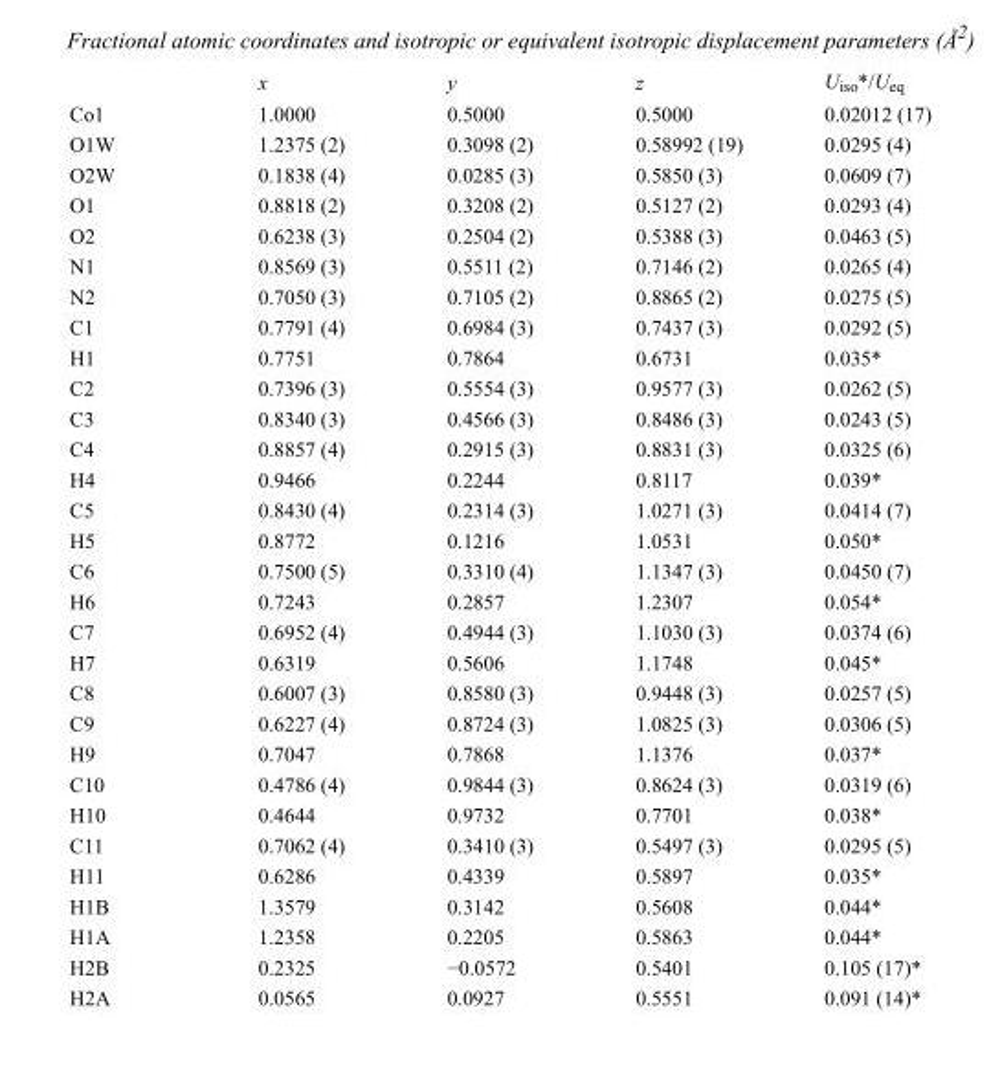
<table><thead><tr><td></td><td>x</td><td>y</td><td>z</td><td>U<sub>iso</sub>*/U<sub>eq</sub></td></tr></thead><tbody><tr><td>Co1</td><td>1.0000</td><td>0.5000</td><td>0.5000</td><td>0.02012 (17)</td></tr><tr><td>O1W</td><td>1.2375 (2)</td><td>0.3098 (2)</td><td>0.58992 (19)</td><td>0.0295 (4)</td></tr><tr><td>O2W</td><td>0.1838 (4)</td><td>0.0285 (3)</td><td>0.5850 (3)</td><td>0.0609 (7)</td></tr><tr><td>O1</td><td>0.8818 (2)</td><td>0.3208 (2)</td><td>0.5127 (2)</td><td>0.0293 (4)</td></tr><tr><td>O2</td><td>0.6238 (3)</td><td>0.2504 (2)</td><td>0.5388 (3)</td><td>0.0463 (5)</td></tr><tr><td>N1</td><td>0.8569 (3)</td><td>0.5511 (2)</td><td>0.7146 (2)</td><td>0.0265 (4)</td></tr><tr><td>N2</td><td>0.7050 (3)</td><td>0.7105 (2)</td><td>0.8865 (2)</td><td>0.0275 (5)</td></tr><tr><td>C1</td><td>0.7791 (4)</td><td>0.6984 (3)</td><td>0.7437 (3)</td><td>0.0292 (5)</td></tr><tr><td>H1</td><td>0.7751</td><td>0.7864</td><td>0.6731</td><td>0.035*</td></tr><tr><td>C2</td><td>0.7396 (3)</td><td>0.5554 (3)</td><td>0.9577 (3)</td><td>0.0262 (5)</td></tr><tr><td>C3</td><td>0.8340 (3)</td><td>0.4566 (3)</td><td>0.8486 (3)</td><td>0.0243 (5)</td></tr><tr><td>C4</td><td>0.8857 (4)</td><td>0.2915 (3)</td><td>0.8831 (3)</td><td>0.0325 (6)</td></tr><tr><td>H4</td><td>0.9466</td><td>0.2244</td><td>0.8117</td><td>0.039*</td></tr><tr><td>C5</td><td>0.8430 (4)</td><td>0.2314 (3)</td><td>1.0271 (3)</td><td>0.0414 (7)</td></tr><tr><td>H5</td><td>0.8772</td><td>0.1216</td><td>1.0531</td><td>0.050*</td></tr><tr><td>C6</td><td>0.7500 (5)</td><td>0.3310 (4)</td><td>1.1347 (3)</td><td>0.0450 (7)</td></tr><tr><td>H6</td><td>0.7243</td><td>0.2857</td><td>1.2307</td><td>0.054*</td></tr><tr><td>C7</td><td>0.6952 (4)</td><td>0.4944 (3)</td><td>1.1030 (3)</td><td>0.0374 (6)</td></tr><tr><td>H7</td><td>0.6319</td><td>0.5606</td><td>1.1748</td><td>0.045*</td></tr><tr><td>C8</td><td>0.6007 (3)</td><td>0.8580 (3)</td><td>0.9448 (3)</td><td>0.0257 (5)</td></tr><tr><td>C9</td><td>0.6227 (4)</td><td>0.8724 (3)</td><td>1.0825 (3)</td><td>0.0306 (5)</td></tr><tr><td>H9</td><td>0.7047</td><td>0.7868</td><td>1.1376</td><td>0.037*</td></tr><tr><td>C10</td><td>0.4786 (4)</td><td>0.9844 (3)</td><td>0.8624 (3)</td><td>0.0319 (6)</td></tr><tr><td>H10</td><td>0.4644</td><td>0.9732</td><td>0.7701</td><td>0.038*</td></tr><tr><td>C11</td><td>0.7062 (4)</td><td>0.3410 (3)</td><td>0.5497 (3)</td><td>0.0295 (5)</td></tr><tr><td>H11</td><td>0.6286</td><td>0.4339</td><td>0.5897</td><td>0.035*</td></tr><tr><td>H1B</td><td>1.3579</td><td>0.3142</td><td>0.5608</td><td>0.044*</td></tr><tr><td>H1A</td><td>1.2358</td><td>0.2205</td><td>0.5863</td><td>0.044*</td></tr><tr><td>H2B</td><td>0.2325</td><td>−0.0572</td><td>0.5401</td><td>0.105 (17)*</td></tr><tr><td>H2A</td><td>0.0565</td><td>0.0927</td><td>0.5551</td><td>0.091 (14)*</td></tr></tbody></table>